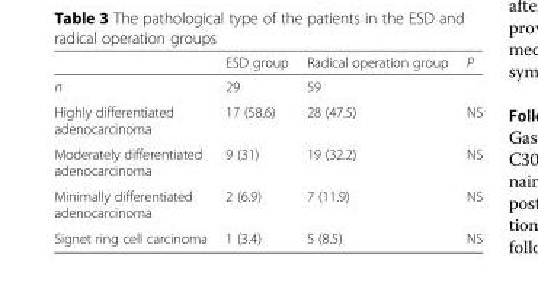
<table><thead><tr><td></td><td>ESD group</td><td>Radical operation group</td><td>P</td></tr></thead><tbody><tr><td>n</td><td>29</td><td>59</td><td></td></tr><tr><td>Highly differentiated adenocarcinoma</td><td>17 (58.6)</td><td>28 (47.5)</td><td>NS</td></tr><tr><td>Moderately differentiated adenocarcinoma</td><td>9 (31)</td><td>19 (32.2)</td><td>NS</td></tr><tr><td>Minimally differentiated adenocarcinoma</td><td>2 (6.9)</td><td>7 (11.9)</td><td>NS</td></tr><tr><td>Signet ring cell carcinoma</td><td>1 (3.4)</td><td>5 (8.5)</td><td>NS</td></tr></tbody></table>